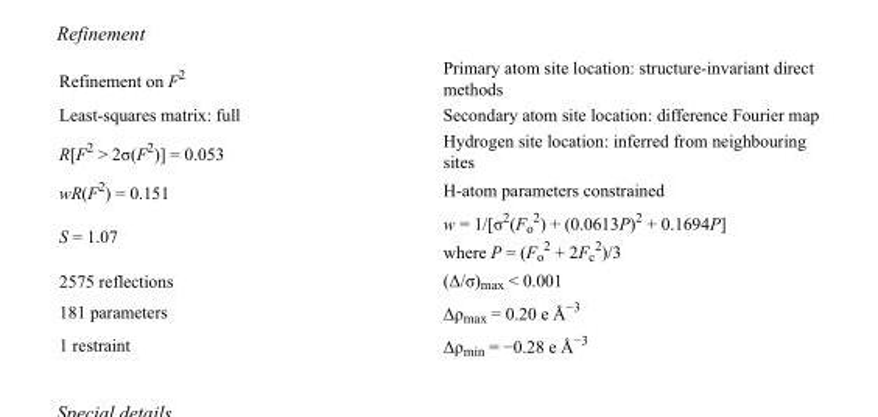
<table><tbody><tr><td>Refinement on F<sup>2</sup></td><td>Primary atom site location: structure-invariant direct methods</td></tr><tr><td>Least-squares matrix: full</td><td>Secondary atom site location: difference Fourier map</td></tr><tr><td>R[F<sup>2</sup> &gt; 2σ(F<sup>2</sup>)] = 0.053</td><td>Hydrogen site location: inferred from neighbouring sites</td></tr><tr><td>wR(F<sup>2</sup>) = 0.151</td><td>H-atom parameters constrained</td></tr><tr><td>S = 1.07</td><td>w = 1/[σ<sup>2</sup>(F<sub>o</sub> <sup>2</sup>) + (0.0613P)<sup>2</sup> + 0.1694P] where P = (F<sub>o</sub> <sup>2</sup> + 2F<sub>c</sub> <sup>2</sup>)/3</td></tr><tr><td>2575 reflections</td><td>(Δ/σ)<sub>max</sub> &lt; 0.001</td></tr><tr><td>181 parameters</td><td>Δρ<sub>max</sub> = 0.20 e Å<sup>−3</sup></td></tr><tr><td>1 restraint</td><td>Δρ<sub>min</sub> = −0.28 e Å<sup>−3</sup></td></tr></tbody></table>